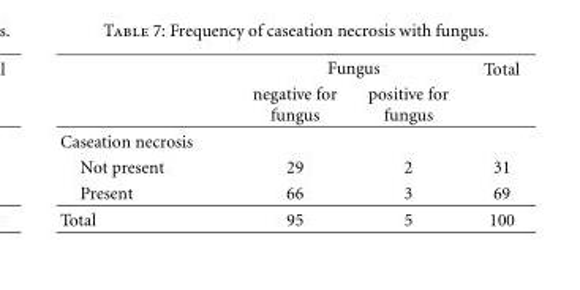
<table><thead><tr><td rowspan="2"></td><td colspan="2">Fungus</td><td rowspan="2">Total</td></tr><tr><td>negative for fungus</td><td>positive for fungus</td></tr></thead><tbody><tr><td colspan="4">Caseation necrosis</td></tr><tr><td>Not present</td><td>29</td><td>2</td><td>31</td></tr><tr><td>Present</td><td>66</td><td>3</td><td>69</td></tr><tr><td>Total</td><td>95</td><td>5</td><td>100</td></tr></tbody></table>